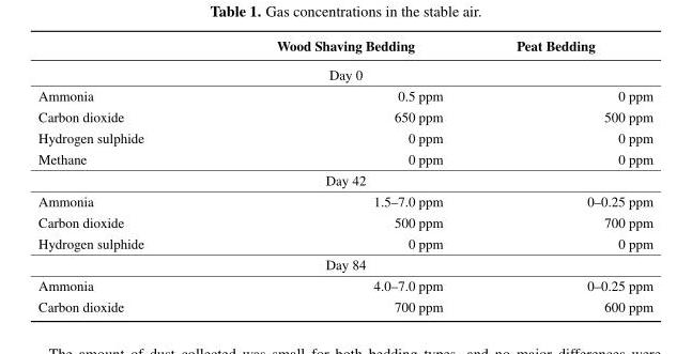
<table><thead><tr><td></td><td>Wood Shaving Bedding</td><td>Peat Bedding</td></tr></thead><tbody><tr><td colspan="3">Day 0</td></tr><tr><td>Ammonia</td><td>0.5 ppm</td><td>0 ppm</td></tr><tr><td>Carbon dioxide</td><td>650 ppm</td><td>500 ppm</td></tr><tr><td>Hydrogen sulphide</td><td>0 ppm</td><td>0 ppm</td></tr><tr><td>Methane</td><td>0 ppm</td><td>0 ppm</td></tr><tr><td colspan="3">Day 42</td></tr><tr><td>Ammonia</td><td>1.5–7.0 ppm</td><td>0–0.25 ppm</td></tr><tr><td>Carbon dioxide</td><td>500 ppm</td><td>700 ppm</td></tr><tr><td>Hydrogen sulphide</td><td>0 ppm</td><td>0 ppm</td></tr><tr><td colspan="3">Day 84</td></tr><tr><td>Ammonia</td><td>4.0–7.0 ppm</td><td>0–0.25 ppm</td></tr><tr><td>Carbon dioxide</td><td>700 ppm</td><td>600 ppm</td></tr></tbody></table>